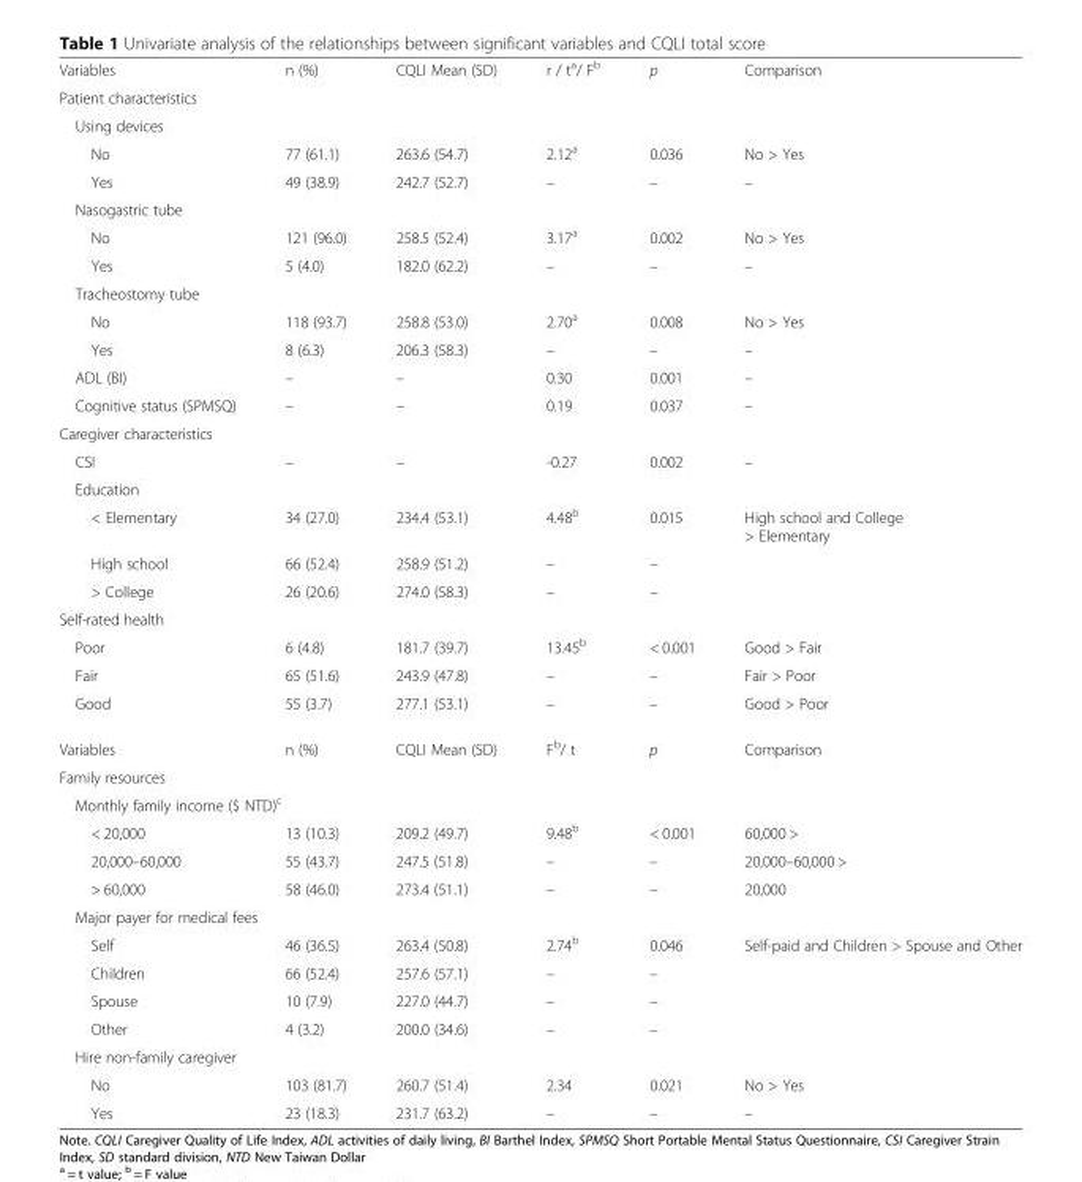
<table><tbody><tr><td>Variables</td><td>n (%)</td><td>CQLI Mean (SD)</td><td>r / t<sup>a</sup>/ F<sup>b</sup></td><td>p</td><td>Comparison</td></tr><tr><td colspan="6">Patient characteristics</td></tr><tr><td colspan="6">Using devices</td></tr><tr><td>No</td><td>77 (61.1)</td><td>263.6 (54.7)</td><td>2.12<sup>a</sup></td><td>0.036</td><td>No &gt; Yes</td></tr><tr><td>Yes</td><td>49 (38.9)</td><td>242.7 (52.7)</td><td>–</td><td>–</td><td>–</td></tr><tr><td colspan="6">Nasogastric tube</td></tr><tr><td>No</td><td>121 (96.0)</td><td>258.5 (52.4)</td><td>3.17<sup>a</sup></td><td>0.002</td><td>No &gt; Yes</td></tr><tr><td>Yes</td><td>5 (4.0)</td><td>182.0 (62.2)</td><td>–</td><td>–</td><td>–</td></tr><tr><td colspan="6">Tracheostomy tube</td></tr><tr><td>No</td><td>118 (93.7)</td><td>258.8 (53.0)</td><td>2.70<sup>a</sup></td><td>0.008</td><td>No &gt; Yes</td></tr><tr><td>Yes</td><td>8 (6.3)</td><td>206.3 (58.3)</td><td>–</td><td>–</td><td>–</td></tr><tr><td>ADL (BI)</td><td>–</td><td>–</td><td>0.30</td><td>0.001</td><td>–</td></tr><tr><td>Cognitive status (SPMSQ)</td><td>–</td><td>–</td><td>0.19</td><td>0.037</td><td>–</td></tr><tr><td colspan="6">Caregiver characteristics</td></tr><tr><td>CSI</td><td>–</td><td>–</td><td>-0.27</td><td>0.002</td><td>–</td></tr><tr><td colspan="6">Education</td></tr><tr><td>&lt; Elementary</td><td>34 (27.0)</td><td>234.4 (53.1)</td><td>4.48<sup>b</sup></td><td>0.015</td><td>High school and College &gt; Elementary</td></tr><tr><td>High school</td><td>66 (52.4)</td><td>258.9 (51.2)</td><td>–</td><td>–</td><td></td></tr><tr><td>&gt; College</td><td>26 (20.6)</td><td>274.0 (58.3)</td><td>–</td><td>–</td><td></td></tr><tr><td colspan="6">Self-rated health</td></tr><tr><td>Poor</td><td>6 (4.8)</td><td>181.7 (39.7)</td><td>13.45<sup>b</sup></td><td>&lt; 0.001</td><td>Good &gt; Fair</td></tr><tr><td>Fair</td><td>65 (51.6)</td><td>243.9 (47.8)</td><td>–</td><td>–</td><td>Fair &gt; Poor</td></tr><tr><td>Good</td><td>55 (3.7)</td><td>277.1 (53.1)</td><td>–</td><td>–</td><td>Good &gt; Poor</td></tr><tr><td>Variables</td><td>n (%)</td><td>CQLI Mean (SD)</td><td>F<sup>b</sup>/ t</td><td>p</td><td>Comparison</td></tr><tr><td colspan="6">Family resources</td></tr><tr><td colspan="6">Monthly family income ($ NTD)<sup>c</sup></td></tr><tr><td>&lt; 20,000</td><td>13 (10.3)</td><td>209.2 (49.7)</td><td>9.48<sup>b</sup></td><td>&lt; 0.001</td><td>60,000 &gt;</td></tr><tr><td>20,000–60,000</td><td>55 (43.7)</td><td>247.5 (51.8)</td><td>–</td><td>–</td><td>20,000–60,000 &gt;</td></tr><tr><td>&gt; 60,000</td><td>58 (46.0)</td><td>273.4 (51.1)</td><td>–</td><td>–</td><td>20,000</td></tr><tr><td colspan="6">Major payer for medical fees</td></tr><tr><td>Self</td><td>46 (36.5)</td><td>263.4 (50.8)</td><td>2.74<sup>b</sup></td><td>0.046</td><td>Self-paid and Children &gt; Spouse and Other</td></tr><tr><td>Children</td><td>66 (52.4)</td><td>257.6 (57.1)</td><td>–</td><td>–</td><td></td></tr><tr><td>Spouse</td><td>10 (7.9)</td><td>227.0 (44.7)</td><td>–</td><td>–</td><td></td></tr><tr><td>Other</td><td>4 (3.2)</td><td>200.0 (34.6)</td><td>–</td><td>–</td><td></td></tr><tr><td colspan="6">Hire non-family caregiver</td></tr><tr><td>No</td><td>103 (81.7)</td><td>260.7 (51.4)</td><td>2.34</td><td>0.021</td><td>No &gt; Yes</td></tr><tr><td>Yes</td><td>23 (18.3)</td><td>231.7 (63.2)</td><td>–</td><td>–</td><td>–</td></tr></tbody></table>